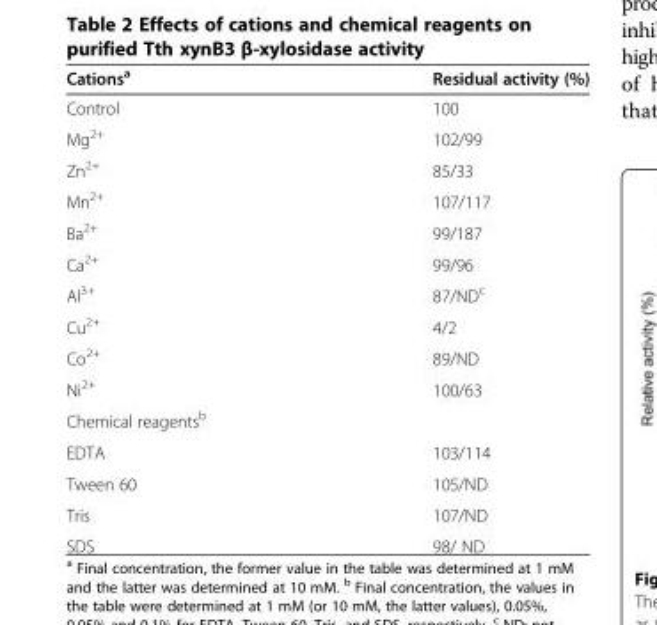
<table><thead><tr><td>Cations<sup>a</sup></td><td>Residual activity (%)</td></tr></thead><tbody><tr><td>Control</td><td>100</td></tr><tr><td>Mg<sup>2+</sup></td><td>102/99</td></tr><tr><td>Zn<sup>2+</sup></td><td>85/33</td></tr><tr><td>Mn<sup>2+</sup></td><td>107/117</td></tr><tr><td>Ba<sup>2+</sup></td><td>99/187</td></tr><tr><td>Ca<sup>2+</sup></td><td>99/96</td></tr><tr><td>Al<sup>3+</sup></td><td>87/ND<sup>c</sup></td></tr><tr><td>Cu<sup>2+</sup></td><td>4/2</td></tr><tr><td>Co<sup>2+</sup></td><td>89/ND</td></tr><tr><td>Ni<sup>2+</sup></td><td>100/63</td></tr><tr><td colspan="2">Chemical reagents<sup>b</sup></td></tr><tr><td>EDTA</td><td>103/114</td></tr><tr><td>Tween 60</td><td>105/ND</td></tr><tr><td>Tris</td><td>107/ND</td></tr><tr><td>SDS</td><td>98/ ND</td></tr></tbody></table>